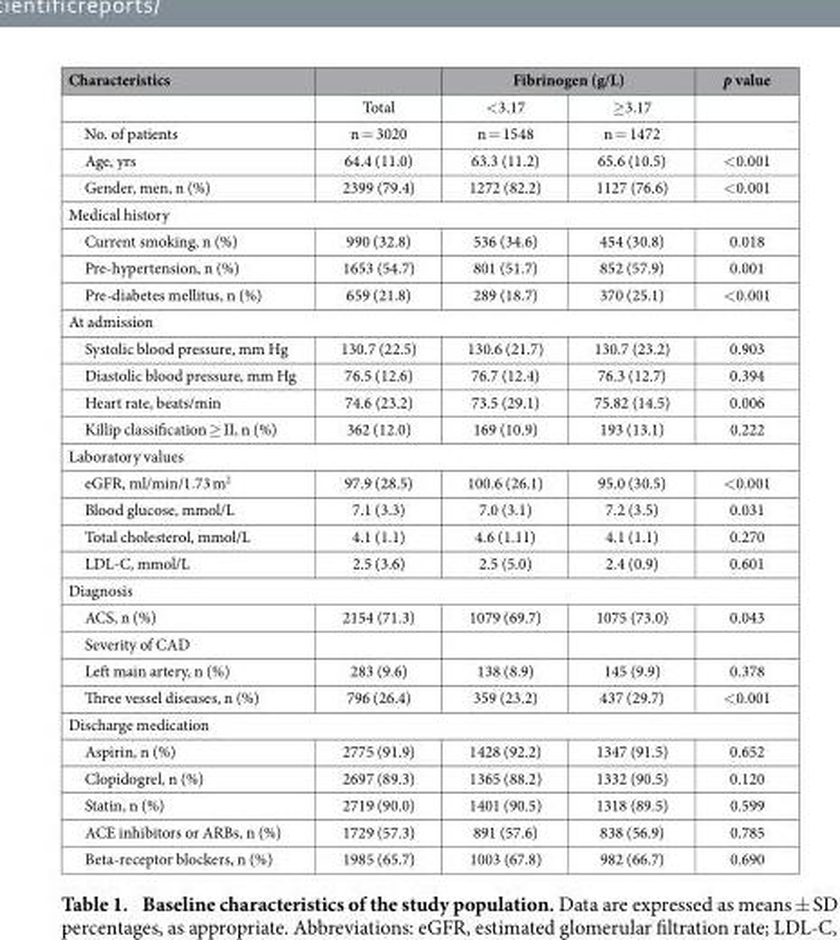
<table><thead><tr><td rowspan="2">Characteristics</td><td rowspan="2">Total</td><td colspan="2">Fibrinogen (g/L)</td><td rowspan="2">p value</td></tr><tr><td>&lt;3.17</td><td>≥3.17</td></tr></thead><tbody><tr><td>No. of patients</td><td>n = 3020</td><td>n = 1548</td><td>n = 1472</td><td></td></tr><tr><td>Age, yrs</td><td>64.4 (11.0)</td><td>63.3 (11.2)</td><td>65.6 (10.5)</td><td>&lt; 0.001</td></tr><tr><td>Gender, men, n (%)</td><td>2399 (79.4)</td><td>1272 (82.2)</td><td>1127 (76.6)</td><td>&lt; 0.001</td></tr><tr><td colspan="5">Medical history</td></tr><tr><td>Current smoking, n (%)</td><td>990 (32.8)</td><td>536 (34.6)</td><td>454 (30.8)</td><td>0.018</td></tr><tr><td>Pre-hypertension, n (%)</td><td>1653 (54.7)</td><td>801 (51.7)</td><td>852 (57.9)</td><td>0.001</td></tr><tr><td>Pre-diabetes mellitus, n (%)</td><td>659 (21.8)</td><td>289 (18.7)</td><td>370 (25.1)</td><td>&lt; 0.001</td></tr><tr><td colspan="5">At admission</td></tr><tr><td>Systolic blood pressure, mm Hg</td><td>130.7 (22.5)</td><td>130.6 (21.7)</td><td>130.7 (23.2)</td><td>0.903</td></tr><tr><td>Diastolic blood pressure, mm Hg</td><td>76.5 (12.6)</td><td>76.7 (12.4)</td><td>76.3 (12.7)</td><td>0.394</td></tr><tr><td>Heart rate, beats/min</td><td>74.6 (23.2)</td><td>73.5 (29.1)</td><td>75.82 (14.5)</td><td>0.006</td></tr><tr><td>Killip classification ≥ II, n (%)</td><td>362 (12.0)</td><td>169 (10.9)</td><td>193 (13.1)</td><td>0.222</td></tr><tr><td colspan="5">Laboratory values</td></tr><tr><td>eGFR, ml/min/1.73 m<sup>2</sup></td><td>97.9 (28.5)</td><td>100.6 (26.1)</td><td>95.0 (30.5)</td><td>&lt; 0.001</td></tr><tr><td>Blood glucose, mmol/L</td><td>7.1 (3.3)</td><td>7.0 (3.1)</td><td>7.2 (3.5)</td><td>0.031</td></tr><tr><td>Total cholesterol, mmol/L</td><td>4.1 (1.1)</td><td>4.6 (1.11)</td><td>4.1 (1.1)</td><td>0.270</td></tr><tr><td>LDL-C, mmol/L</td><td>2.5 (3.6)</td><td>2.5 (5.0)</td><td>2.4 (0.9)</td><td>0.601</td></tr><tr><td colspan="5">Diagnosis</td></tr><tr><td>ACS, n (%)</td><td>2154 (71.3)</td><td>1079 (69.7)</td><td>1075 (73.0)</td><td>0.043</td></tr><tr><td colspan="5">Severity of CAD</td></tr><tr><td>Left main artery, n (%)</td><td>283 (9.6)</td><td>138 (8.9)</td><td>145 (9.9)</td><td>0.378</td></tr><tr><td>Three vessel diseases, n (%)</td><td>796 (26.4)</td><td>359 (23.2)</td><td>437 (29.7)</td><td>&lt; 0.001</td></tr><tr><td colspan="5">Discharge medication</td></tr><tr><td>Aspirin, n (%)</td><td>2775 (91.9)</td><td>1428 (92.2)</td><td>1347 (91.5)</td><td>0.652</td></tr><tr><td>Clopidogrel, n (%)</td><td>2697 (89.3)</td><td>1365 (88.2)</td><td>1332 (90.5)</td><td>0.120</td></tr><tr><td>Statin, n (%)</td><td>2719 (90.0)</td><td>1401 (90.5)</td><td>1318 (89.5)</td><td>0.599</td></tr><tr><td>ACE inhibitors or ARBs, n (%)</td><td>1729 (57.3)</td><td>891 (57.6)</td><td>838 (56.9)</td><td>0.785</td></tr><tr><td>Beta-receptor blockers, n (%)</td><td>1985 (65.7)</td><td>1003 (67.8)</td><td>982 (66.7)</td><td>0.690</td></tr></tbody></table>